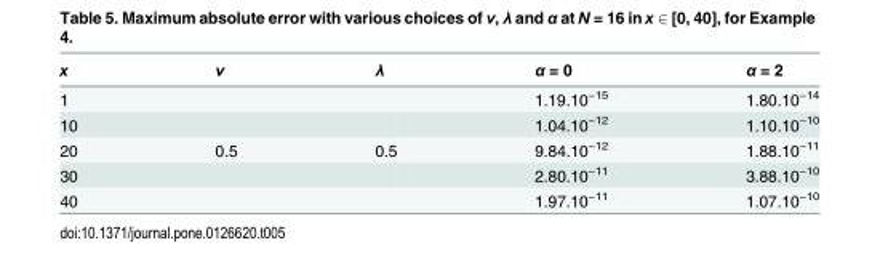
<table><thead><tr><td>x</td><td>ν</td><td>λ</td><td>α = 0</td><td>α = 2</td></tr></thead><tbody><tr><td>1</td><td></td><td></td><td>1.19.10<sup>−15</sup></td><td>1.80.10<sup>−14</sup></td></tr><tr><td>10</td><td></td><td></td><td>1.04.10<sup>−12</sup></td><td>1.10.10<sup>−10</sup></td></tr><tr><td>20</td><td>0.5</td><td>0.5</td><td>9.84.10<sup>−12</sup></td><td>1.88.10<sup>−11</sup></td></tr><tr><td>30</td><td></td><td></td><td>2.80.10<sup>−11</sup></td><td>3.88.10<sup>−10</sup></td></tr><tr><td>40</td><td></td><td></td><td>1.97.10<sup>−11</sup></td><td>1.07.10<sup>−10</sup></td></tr></tbody></table>